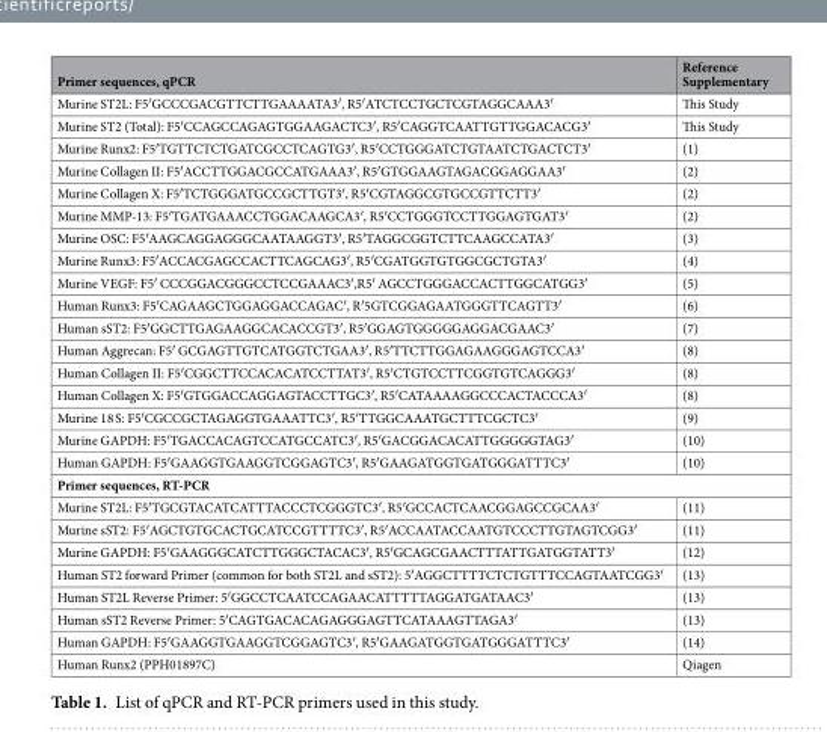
<table><thead><tr><td>Primer sequences, qPCR</td><td>Reference Supplementary</td></tr></thead><tbody><tr><td>Murine ST2L: F5′GCCCGACGTTCTTGAAAATA3′, R5′ATCTCCTGCTCGTAGGCAAA3′</td><td>This Study</td></tr><tr><td>Murine ST2 (Total): F5′CCAGCCAGAGTGGAAGACTC3′, R5′CAGGTCAATTGTTGGACACG3′</td><td>This Study</td></tr><tr><td>Murine Runx2: F5′TGTTCTCTGATCGCCTCAGTG3′, R5′CCTGGGATCTGTAATCTGACTCT3′</td><td>(1)</td></tr><tr><td>Murine Collagen II: F5′ACCTTGGACGCCATGAAA3′, R5′GTGGAAGTAGACGGAGGAA3′</td><td>(2)</td></tr><tr><td>Murine Collagen X: F5′TCTGGGATGCCGCTTGT3′, R5′CGTAGGCGTGCCGTTCTT3′</td><td>(2)</td></tr><tr><td>Murine MMP-13: F5′TGATGAAACCTGGACAAGCA3′, R5′CCTGGGTCCTTGGAGTGAT3′</td><td>(2)</td></tr><tr><td>Murine OSC: F5′AAGCAGGAGGGCAATAAGGT3′, R5′TAGGCGGTCTTCAAGCCATA3′</td><td>(3)</td></tr><tr><td>Murine Runx3: F5′ACCACGAGCCACTTCAGCAG3′, R5′CGATGGTGTGGCGCTGTA3′</td><td>(4)</td></tr><tr><td>Murine VEGF: F5′ CCCGGACGGGCCTCCGAAAC3′,R5′ AGCCTGGGACCACTTGGCATGG3′</td><td>(5)</td></tr><tr><td>Human Runx3: F5′CAGAAGCTGGAGGACCAGAC′, R′5GTCGGAGAATGGGTTCAGTT3′</td><td>(6)</td></tr><tr><td>Human sST2: F5′GGCTTGAGAAGGCACACCGT3′, R5′GGAGTGGGGGAGGACGAAC3′</td><td>(7)</td></tr><tr><td>Human Aggrecan: F5′ GCGAGTTGTCATGGTCTGAA3′, R5′TTCTTGGAGAAGGGAGTCCA3′</td><td>(8)</td></tr><tr><td>Human Collagen II: F5′CGGCTTCCACACATCCTTAT3′, R5′CTGTCCTTCGGTGTCAGGG3′</td><td>(8)</td></tr><tr><td>Human Collagen X: F5′GTGGACCAGGAGTACCTTGC3′, R5′CATAAAAGGCCCACTACCCA3′</td><td>(8)</td></tr><tr><td>Murine 18 S: F5′CGCCGCTAGAGGTGAAATTC3′, R5′TTGGCAAATGCTTTCGCTC3′</td><td>(9)</td></tr><tr><td>Murine GAPDH: F5′TGACCACAGTCCATGCCATC3′, R5′GACGGACACATTGGGGGTAG3′</td><td>(10)</td></tr><tr><td>Human GAPDH: F5′GAAGGTGAAGGTCGGAGTC3′, R5′GAAGATGGTGATGGGATTTC3′</td><td>(10)</td></tr><tr><td colspan="2">Primer sequences, RT-PCR</td></tr><tr><td>Murine ST2L: F5′TGCGTACATCATTTACCCTCGGGTC3′, R5′GCCACTCAACGGAGCCGCAA3′</td><td>(11)</td></tr><tr><td>Murine sST2: F5′AGCTGTGCACTGCATCCGTTTTC3′, R5′ACCAATACCAATGTCCCTTGTAGTCGG3′</td><td>(11)</td></tr><tr><td>Murine GAPDH: F5′GAAGGGCATCTTGGGCTACAC3′, R5′GCAGCGAACTTTATTGATGGTATT3′</td><td>(12)</td></tr><tr><td>Human ST2 forward Primer (common for both ST2L and sST2): 5′AGGCTTTTCTCTGTTTCCAGTAATCGG3′</td><td>(13)</td></tr><tr><td>Human ST2L Reverse Primer: 5′GGCCTCAATCCAGAACATTTTTAGGATGATAAC3′</td><td>(13)</td></tr><tr><td>Human sST2 Reverse Primer: 5′CAGTGACACAGAGGGAGTTCATAAAGTTAGA3′</td><td>(13)</td></tr><tr><td>Human GAPDH: F5′GAAGGTGAAGGTCGGAGTC3′, R5′GAAGATGGTGATGGGATTTC3′</td><td>(14)</td></tr><tr><td>Human Runx2 (PPH01897C)</td><td>Qiagen</td></tr></tbody></table>